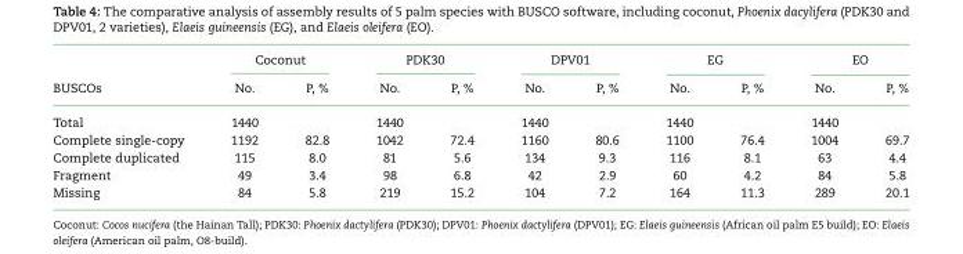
<table><thead><tr><td rowspan="2">BUSCOs</td><td colspan="2">Coconut</td><td colspan="2">PDK30</td><td colspan="2">DPV01</td><td colspan="2">EG</td><td colspan="2">EO</td></tr><tr><td>No.</td><td>P, %</td><td>No.</td><td>P, %</td><td>No.</td><td>P, %</td><td>No.</td><td>P, %</td><td>No.</td><td>P, %</td></tr></thead><tbody><tr><td>Total</td><td>1440</td><td></td><td>1440</td><td></td><td>1440</td><td></td><td>1440</td><td></td><td>1440</td><td></td></tr><tr><td>Complete single-copy</td><td>1192</td><td>82.8</td><td>1042</td><td>72.4</td><td>1160</td><td>80.6</td><td>1100</td><td>76.4</td><td>1004</td><td>69.7</td></tr><tr><td>Complete duplicated</td><td>115</td><td>8.0</td><td>81</td><td>5.6</td><td>134</td><td>9.3</td><td>116</td><td>8.1</td><td>63</td><td>4.4</td></tr><tr><td>Fragment</td><td>49</td><td>3.4</td><td>98</td><td>6.8</td><td>42</td><td>2.9</td><td>60</td><td>4.2</td><td>84</td><td>5.8</td></tr><tr><td>Missing</td><td>84</td><td>5.8</td><td>219</td><td>15.2</td><td>104</td><td>7.2</td><td>164</td><td>11.3</td><td>289</td><td>20.1</td></tr></tbody></table>